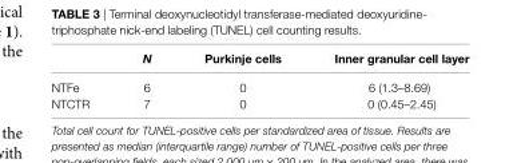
<table><thead><tr><td></td><td>N</td><td>Purkinje cells</td><td>inner granular cell layer</td></tr></thead><tbody><tr><td>NTFe</td><td>6</td><td>0</td><td>6 (1.3–8.69)</td></tr><tr><td>NTCTR</td><td>7</td><td>0</td><td>0 (0.45–2.45)</td></tr></tbody></table>